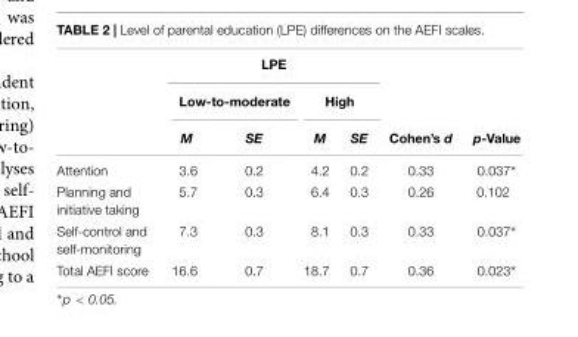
<table><thead><tr><td rowspan="3"></td><td colspan="4">LPE</td><td rowspan="3">Cohen’s d</td><td rowspan="3">p-Value</td></tr><tr><td colspan="2">Low-to-moderate</td><td colspan="2">High</td></tr><tr><td>M</td><td>SE</td><td>M</td><td>SE</td></tr></thead><tbody><tr><td>Attention</td><td>3.6</td><td>0.2</td><td>4.2</td><td>0.2</td><td>0.33</td><td>0.037∗</td></tr><tr><td>Planning and initiative taking</td><td>5.7</td><td>0.3</td><td>6.4</td><td>0.3</td><td>0.26</td><td>0.102</td></tr><tr><td>Self-control and self-monitoring</td><td>7.3</td><td>0.3</td><td>8.1</td><td>0.3</td><td>0.33</td><td>0.037∗</td></tr><tr><td>Total AEFI score</td><td>16.6</td><td>0.7</td><td>18.7</td><td>0.7</td><td>0.36</td><td>0.023∗</td></tr></tbody></table>